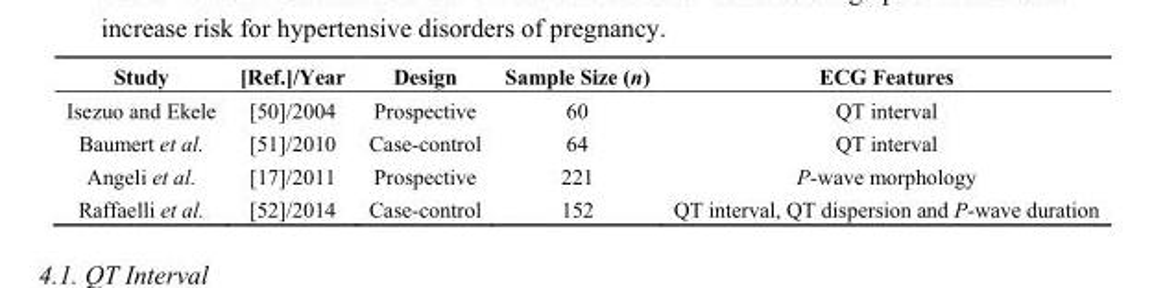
<table><thead><tr><td>Study</td><td>[Ref.]/Year</td><td>Design</td><td>Sample Size (n)</td><td>ECG Features</td></tr></thead><tbody><tr><td>Isezuo and Ekele</td><td>[50]/2004</td><td>Prospective</td><td>60</td><td>QT interval</td></tr><tr><td>Baumert et al.</td><td>[51]/2010</td><td>Case-control</td><td>64</td><td>QT interval</td></tr><tr><td>Angeli et al.</td><td>[17]/2011</td><td>Prospective</td><td>221</td><td>P-wave morphology</td></tr><tr><td>Raffaelli et al.</td><td>[52]/2014</td><td>Case-control</td><td>152</td><td>QT interval, QT dispersion and P-wave duration</td></tr></tbody></table>